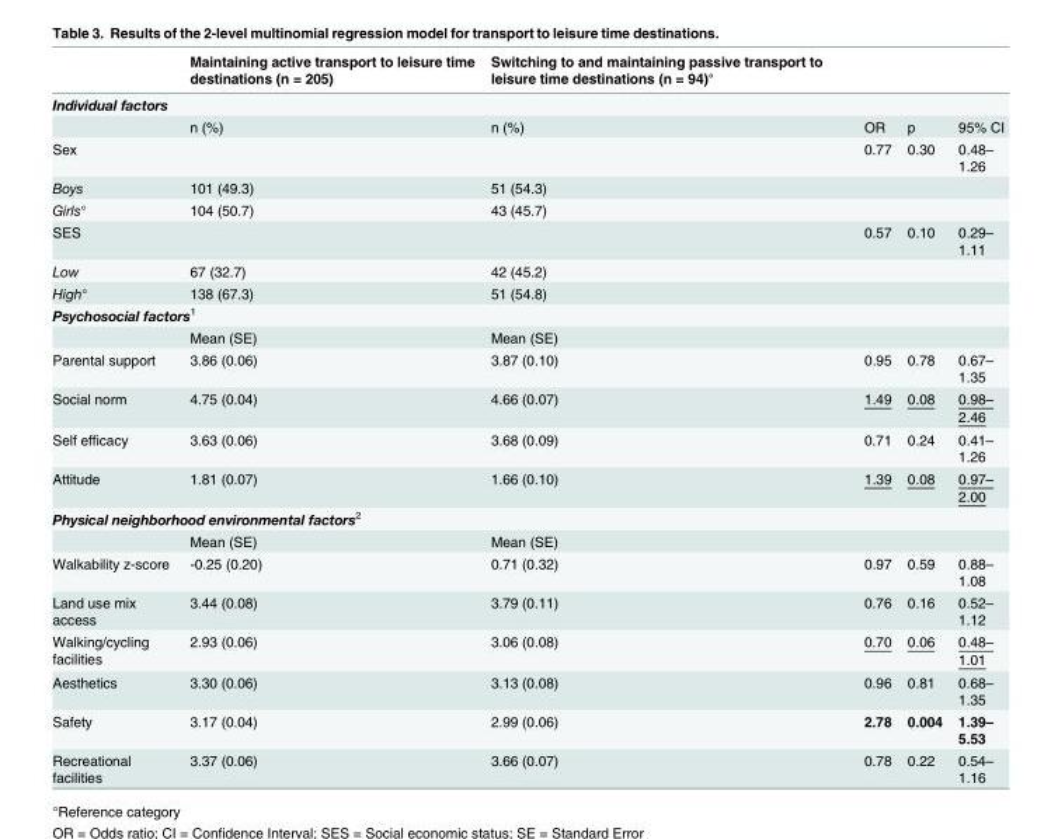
<table><thead><tr><td></td><td>Maintaining active transport to leisure time destinations (n = 205)</td><td>Switching to and maintaining passive transport to leisure time destinations (n = 94)°</td><td></td><td></td><td></td></tr></thead><tbody><tr><td colspan="6">Individual factors</td></tr><tr><td></td><td>n (%)</td><td>n (%)</td><td>OR</td><td>p</td><td>95% CI</td></tr><tr><td>Sex</td><td></td><td></td><td>0.77</td><td>0.30</td><td>0.48– 1.26</td></tr><tr><td>Boys</td><td>101 (49.3)</td><td>51 (54.3)</td><td></td><td></td><td></td></tr><tr><td>Girls°</td><td>104 (50.7)</td><td>43 (45.7)</td><td></td><td></td><td></td></tr><tr><td>SES</td><td></td><td></td><td>0.57</td><td>0.10</td><td>0.29– 1.11</td></tr><tr><td>Low</td><td>67 (32.7)</td><td>42 (45.2)</td><td></td><td></td><td></td></tr><tr><td>High°</td><td>138 (67.3)</td><td>51 (54.8)</td><td></td><td></td><td></td></tr><tr><td colspan="6">Psychosocial factors<sup>1</sup></td></tr><tr><td></td><td>Mean (SE)</td><td>Mean (SE)</td><td></td><td></td><td></td></tr><tr><td>Parental support</td><td>3.86 (0.06)</td><td>3.87 (0.10)</td><td>0.95</td><td>0.78</td><td>0.67– 1.35</td></tr><tr><td>Social norm</td><td>4.75 (0.04)</td><td>4.66 (0.07)</td><td>1.49</td><td>0.08</td><td>0.98– 2.46</td></tr><tr><td>Self efficacy</td><td>3.63 (0.06)</td><td>3.68 (0.09)</td><td>0.71</td><td>0.24</td><td>0.41– 1.26</td></tr><tr><td>Attitude</td><td>1.81 (0.07)</td><td>1.66 (0.10)</td><td>1.39</td><td>0.08</td><td>0.97– 2.00</td></tr><tr><td colspan="6">Physical neighborhood environmental factors<sup>2</sup></td></tr><tr><td></td><td>Mean (SE)</td><td>Mean (SE)</td><td></td><td></td><td></td></tr><tr><td>Walkability z-score</td><td>-0.25 (0.20)</td><td>0.71 (0.32)</td><td>0.97</td><td>0.59</td><td>0.88– 1.08</td></tr><tr><td>Land use mix access</td><td>3.44 (0.08)</td><td>3.79 (0.11)</td><td>0.76</td><td>0.16</td><td>0.52– 1.12</td></tr><tr><td>Walking/cycling facilities</td><td>2.93 (0.06)</td><td>3.06 (0.08)</td><td>0.70</td><td>0.06</td><td>0.48– 1.01</td></tr><tr><td>Aesthetics</td><td>3.30 (0.06)</td><td>3.13 (0.08)</td><td>0.96</td><td>0.81</td><td>0.68– 1.35</td></tr><tr><td>Safety</td><td>3.17 (0.04)</td><td>2.99 (0.06)</td><td>2.78</td><td>0.004</td><td>1.39– 5.53</td></tr><tr><td>Recreational facilities</td><td>3.37 (0.06)</td><td>3.66 (0.07)</td><td>0.78</td><td>0.22</td><td>0.54– 1.16</td></tr></tbody></table>